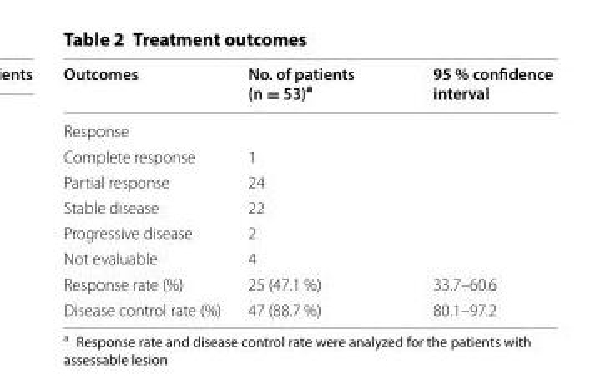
<table><thead><tr><td>Outcomes</td><td>No. of patients (n = 53)<sup>a</sup></td><td>95 % confidence interval</td></tr></thead><tbody><tr><td colspan="3">Response</td></tr><tr><td>Complete response</td><td>1</td><td></td></tr><tr><td>Partial response</td><td>24</td><td></td></tr><tr><td>Stable disease</td><td>22</td><td></td></tr><tr><td>Progressive disease</td><td>2</td><td></td></tr><tr><td>Not evaluable</td><td>4</td><td></td></tr><tr><td>Response rate (%)</td><td>25 (47.1 %)</td><td>33.7–60.6</td></tr><tr><td>Disease control rate (%)</td><td>47 (88.7 %)</td><td>80.1–97.2</td></tr></tbody></table>